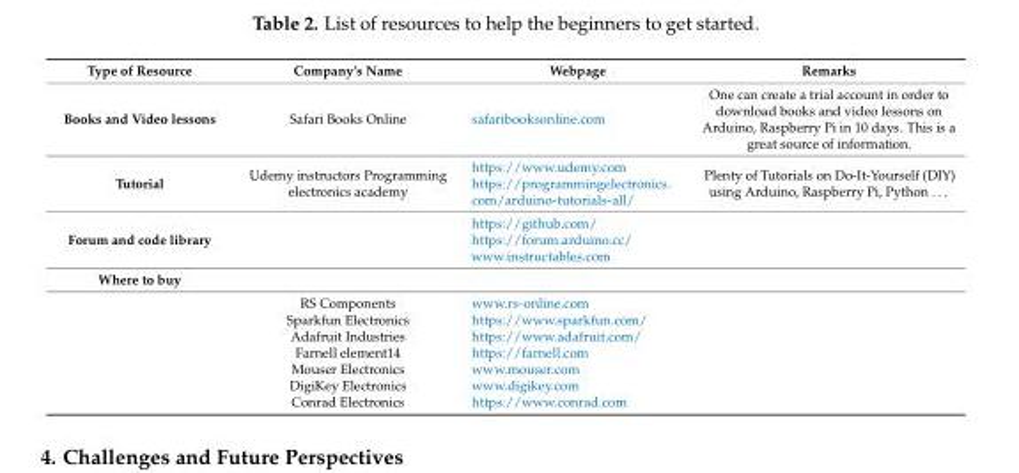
<table><thead><tr><td>Type of Resource</td><td>Company’s Name</td><td>Webpage</td><td>Remarks</td></tr></thead><tbody><tr><td>Books and Video lessons</td><td>Safari Books Online</td><td>safaribooksonline.com</td><td>One can create a trial account in order to download books and video lessons on Arduino, Raspberry Pi in 10 days. This is a great source of information.</td></tr><tr><td>Tutorial</td><td>Udemy instructors Programming electronics academy</td><td>https://www.udemy.com https://programmingelectronics. com/arduino-tutorials-all/</td><td>Plenty of Tutorials on Do-It-Yourself (DIY) using Arduino, Raspberry Pi, Python . . .</td></tr><tr><td>Forum and code library</td><td></td><td>https://github.com/ https://forum.arduino.cc/ www.instructables.com</td><td></td></tr><tr><td colspan="4">Where to buy</td></tr><tr><td></td><td>RS Components</td><td>www.rs-online.com</td><td></td></tr><tr><td></td><td>Sparkfun Electronics</td><td>https://www.sparkfun.com/</td><td></td></tr><tr><td></td><td>Adafruit Industries</td><td>https://www.adafruit.com/</td><td></td></tr><tr><td></td><td>Farnell element14</td><td>https://farnell.com</td><td></td></tr><tr><td></td><td>Mouser Electronics</td><td>www.mouser.com</td><td></td></tr><tr><td></td><td>DigiKey Electronics</td><td>www.digikey.com</td><td></td></tr><tr><td></td><td>Conrad Electronics</td><td>https://www.conrad.com</td><td></td></tr></tbody></table>